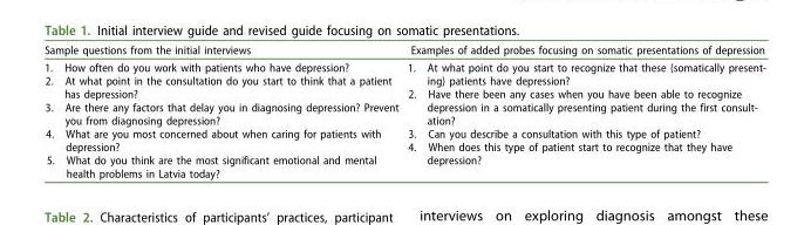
<table><thead><tr><td>Sample questions from the initial interviews</td><td>Examples of added probes focusing on somatic presentations of depression</td></tr></thead><tbody><tr><td>1. How often do you work with patients who have depression? 2. At what point in the consultation do you start to think that a patient has depression? 3. Are there any factors that delay you in diagnosing depression? Prevent you from diagnosing depression? 4. What are you most concerned about when caring for patients with depression? 5. What do you think are the most significant emotional and mental health problems in Latvia today?</td><td>1. At what point do you start to recognize that these (somatically present- ing) patients have depression? 2. Have there been any cases when you have been able to recognize depression in a somatically presenting patient during the first consult- ation? 3. Can you describe a consultation with this type of patient? 4. When does this type of patient start to recognize that they have depression?</td></tr></tbody></table>